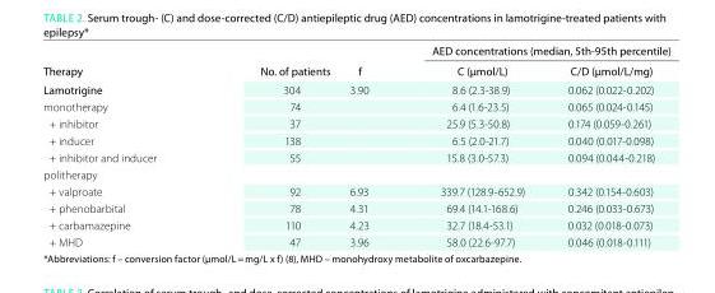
<table><thead><tr><td rowspan="2">Therapy</td><td rowspan="2">No. of patients</td><td rowspan="2">f</td><td colspan="2">aED concentrations (median, 5th-95th percentile)</td></tr><tr><td>C (µmol/L)</td><td>C/D (µmol/L/mg)</td></tr></thead><tbody><tr><td>Lamotrigine</td><td>304</td><td>3.90</td><td>8.6 (2.3-38.9)</td><td>0.062 (0.022-0.202)</td></tr><tr><td>monotherapy</td><td>74</td><td></td><td>6.4 (1.6-23.5)</td><td>0.065 (0.024-0.145)</td></tr><tr><td>+ inhibitor</td><td>37</td><td></td><td>25.9 (5.3-50.8)</td><td>0.174 (0.059-0.261)</td></tr><tr><td>+ inducer</td><td>138</td><td></td><td>6.5 (2.0-21.7)</td><td>0.040 (0.017-0.098)</td></tr><tr><td>+ inhibitor and inducer</td><td>55</td><td></td><td>15.8 (3.0-57.3)</td><td>0.094 (0.044-0.218)</td></tr><tr><td colspan="5">politherapy</td></tr><tr><td>+ valproate</td><td>92</td><td>6.93</td><td>339.7 (128.9-652.9)</td><td>0.342 (0.154-0.603)</td></tr><tr><td>+ phenobarbital</td><td>78</td><td>4.31</td><td>69.4 (14.1-168.6)</td><td>0.246 (0.033-0.673)</td></tr><tr><td>+ carbamazepine</td><td>110</td><td>4.23</td><td>32.7 (18.4-53.1)</td><td>0.032 (0.018-0.073)</td></tr><tr><td>+ MHD</td><td>47</td><td>3.96</td><td>58.0 (22.6-97.7)</td><td>0.046 (0.018-0.111)</td></tr></tbody></table>